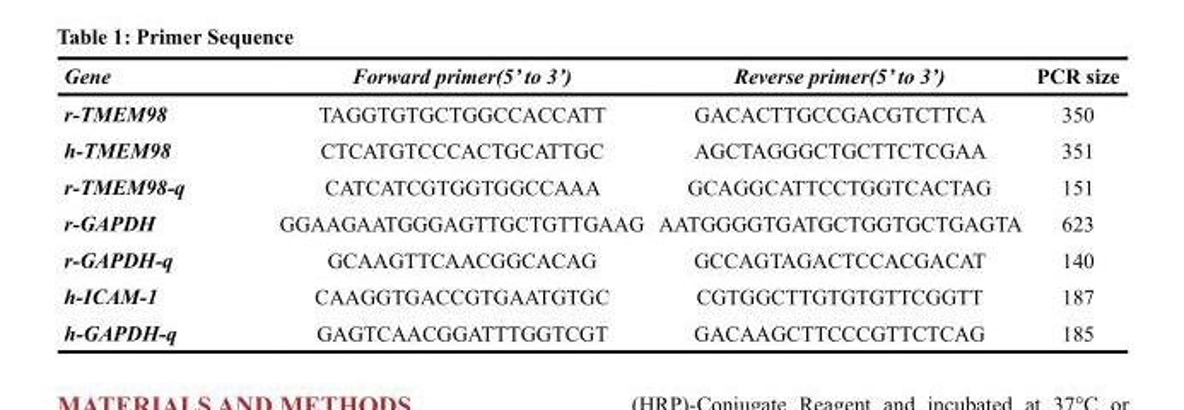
<table><thead><tr><td>Gene</td><td>Forward primer(5’ to 3’)</td><td>Reverse primer(5’ to 3’)</td><td>PCR size</td></tr></thead><tbody><tr><td>r-TMEM98</td><td>TAGGTGTGCTGGCCACCATT</td><td>GACACTTGCCGACGTCTTCA</td><td>350</td></tr><tr><td>h-TMEM98</td><td>CTCATGTCCCACTGCATTGC</td><td>AGCTAGGGCTGCTTCTCGAA</td><td>351</td></tr><tr><td>r-TMEM98-q</td><td>CATCATCGTGGTGGCCAAA</td><td>GCAGGCATTCCTGGTCACTAG</td><td>151</td></tr><tr><td>r-GAPDH</td><td>GGAAGAATGGGAGTTGCTGTTGAAG</td><td>AATGGGGTGATGCTGGTGCTGAGTA</td><td>623</td></tr><tr><td>r-GAPDH-q</td><td>GCAAGTTCAACGGCACAG</td><td>GCCAGTAGACTCCACGACAT</td><td>140</td></tr><tr><td>h-ICAM-1</td><td>CAAGGTGACCGTGAATGTGC</td><td>CGTGGCTTGTGTGTTCGGTT</td><td>187</td></tr><tr><td>h-GAPDH-q</td><td>GAGTCAACGGATTTGGTCGT</td><td>GACAAGCTTCCCGTTCTCAG</td><td>185</td></tr></tbody></table>